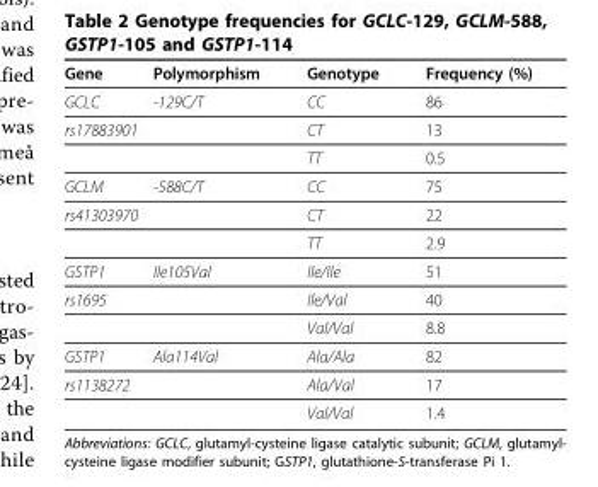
<table><thead><tr><td>Gene</td><td>Polymorphism</td><td>Genotype</td><td>Frequency (%)</td></tr></thead><tbody><tr><td>GCLC</td><td>-129C/T</td><td>CC</td><td>86</td></tr><tr><td colspan="2">rs17883901</td><td>CT</td><td>13</td></tr><tr><td></td><td></td><td>TT</td><td>0.5</td></tr><tr><td>GCLM</td><td>-588C/T</td><td>CC</td><td>75</td></tr><tr><td colspan="2">rs41303970</td><td>CT</td><td>22</td></tr><tr><td></td><td></td><td>TT</td><td>2.9</td></tr><tr><td>GSTP1</td><td>Ile105Val</td><td>Ile/Ile</td><td>51</td></tr><tr><td rowspan="2">rs1695</td><td></td><td>Ile/Val</td><td>40</td></tr><tr><td></td><td>Val/Val</td><td>8.8</td></tr><tr><td>GSTP1</td><td>Ala114Val</td><td>Ala/Ala</td><td>82</td></tr><tr><td colspan="2">rs1138272</td><td>Ala/Val</td><td>17</td></tr><tr><td></td><td></td><td>Val/Val</td><td>1.4</td></tr></tbody></table>